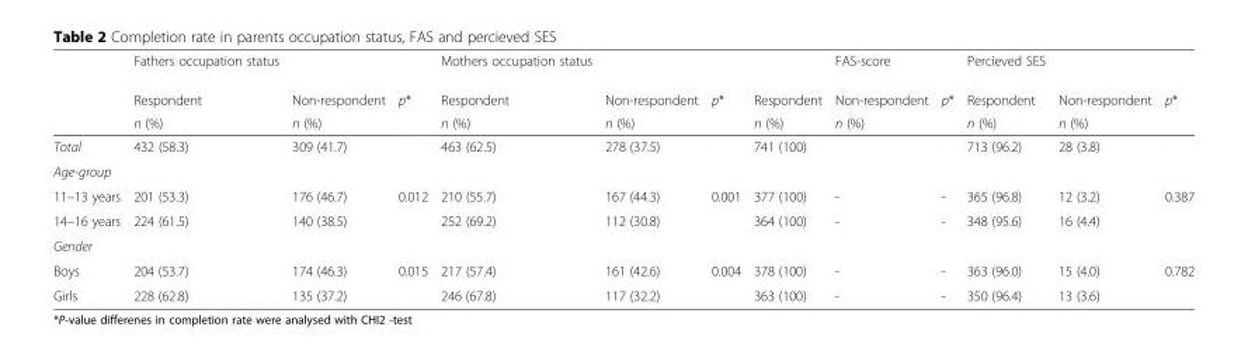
<table><thead><tr><td rowspan="3"></td><td rowspan="3">Fathers occupation status Respondent n (%)</td><td rowspan="3">Non-respondent n (%)</td><td rowspan="3">p*</td><td rowspan="3">Mothers occupation status Respondent n (%)</td><td rowspan="3">Non-respondent n (%)</td><td rowspan="3">p*</td><td rowspan="3">Respondent n (%)</td><td rowspan="3">FAS-score Non-respondent n (%)</td><td rowspan="3">p*</td><td rowspan="3">Percieved SES Respondent n (%)</td><td rowspan="3">Non-respondent n (%)</td><td rowspan="3">p*</td></tr><tr></tr><tr></tr></thead><tbody><tr><td>Total</td><td>432 (58.3)</td><td>309 (41.7)</td><td></td><td>463 (62.5)</td><td>278 (37.5)</td><td></td><td>741 (100)</td><td></td><td></td><td>713 (96.2)</td><td>28 (3.8)</td><td></td></tr><tr><td colspan="13">Age-group</td></tr><tr><td>11–13 years</td><td>201 (53.3)</td><td>176 (46.7)</td><td>0.012</td><td>210 (55.7)</td><td>167 (44.3)</td><td>0.001</td><td>377 (100)</td><td>-</td><td>-</td><td>365 (96.8)</td><td>12 (3.2)</td><td>0.387</td></tr><tr><td>14–16 years</td><td>224 (61.5)</td><td>140 (38.5)</td><td></td><td>252 (69.2)</td><td>112 (30.8)</td><td></td><td>364 (100)</td><td>-</td><td>-</td><td>348 (95.6)</td><td>16 (4.4)</td><td></td></tr><tr><td colspan="13">Gender</td></tr><tr><td>Boys</td><td>204 (53.7)</td><td>174 (46.3)</td><td>0.015</td><td>217 (57.4)</td><td>161 (42.6)</td><td>0.004</td><td>378 (100)</td><td>-</td><td>-</td><td>363 (96.0)</td><td>15 (4.0)</td><td>0.782</td></tr><tr><td>Girls</td><td>228 (62.8)</td><td>135 (37.2)</td><td></td><td>246 (67.8)</td><td>117 (32.2)</td><td></td><td>363 (100)</td><td>-</td><td>-</td><td>350 (96.4)</td><td>13 (3.6)</td><td></td></tr></tbody></table>